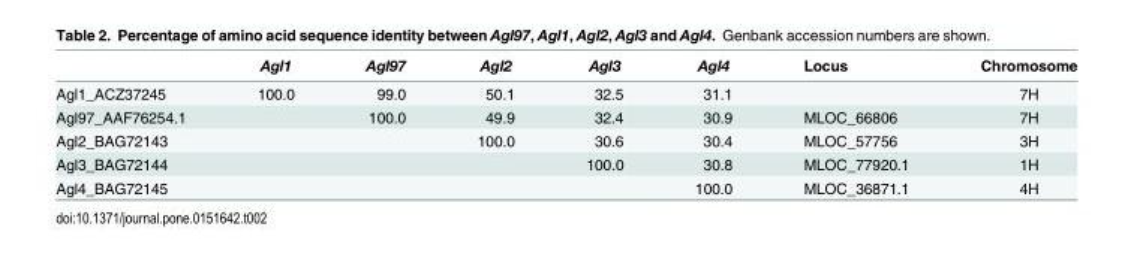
<table><thead><tr><td></td><td>Agl1</td><td>Agl97</td><td>Agl2</td><td>Agl3</td><td>Agl4</td><td>Locus</td><td>Chromosome</td></tr></thead><tbody><tr><td>Agl1_ACZ37245</td><td>100.0</td><td>99.0</td><td>50.1</td><td>32.5</td><td>31.1</td><td></td><td>7H</td></tr><tr><td>Agl97_AAF76254.1</td><td></td><td>100.0</td><td>49.9</td><td>32.4</td><td>30.9</td><td>MLOC_66806</td><td>7H</td></tr><tr><td>Agl2_BAG72143</td><td></td><td></td><td>100.0</td><td>30.6</td><td>30.4</td><td>MLOC_57756</td><td>3H</td></tr><tr><td>Agl3_BAG72144</td><td></td><td></td><td></td><td>100.0</td><td>30.8</td><td>MLOC_77920.1</td><td>1H</td></tr><tr><td>Agl4_BAG72145</td><td></td><td></td><td></td><td></td><td>100.0</td><td>MLOC_36871.1</td><td>4H</td></tr></tbody></table>